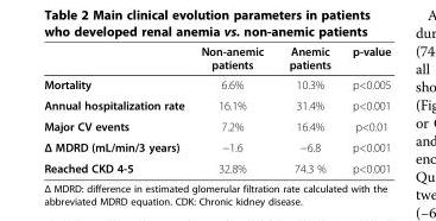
<table><thead><tr><td></td><td>Non-anemic patients</td><td>Anemic patients</td><td>p-value</td></tr></thead><tbody><tr><td>Mortality</td><td>6.6%</td><td>10.3%</td><td>p&lt;0.005</td></tr><tr><td>Annual hospitalization rate</td><td>16.1%</td><td>31.4%</td><td>p&lt;0.001</td></tr><tr><td>Major CV events</td><td>7.2%</td><td>16.4%</td><td>p&lt;0.01</td></tr><tr><td>Δ MDRD (mL/min/3 years)</td><td>−1.6</td><td>−6.8</td><td>p&lt;0.001</td></tr><tr><td>Reached CKD 4-5</td><td>32.8%</td><td>74.3 %</td><td>p&lt;0.001</td></tr></tbody></table>